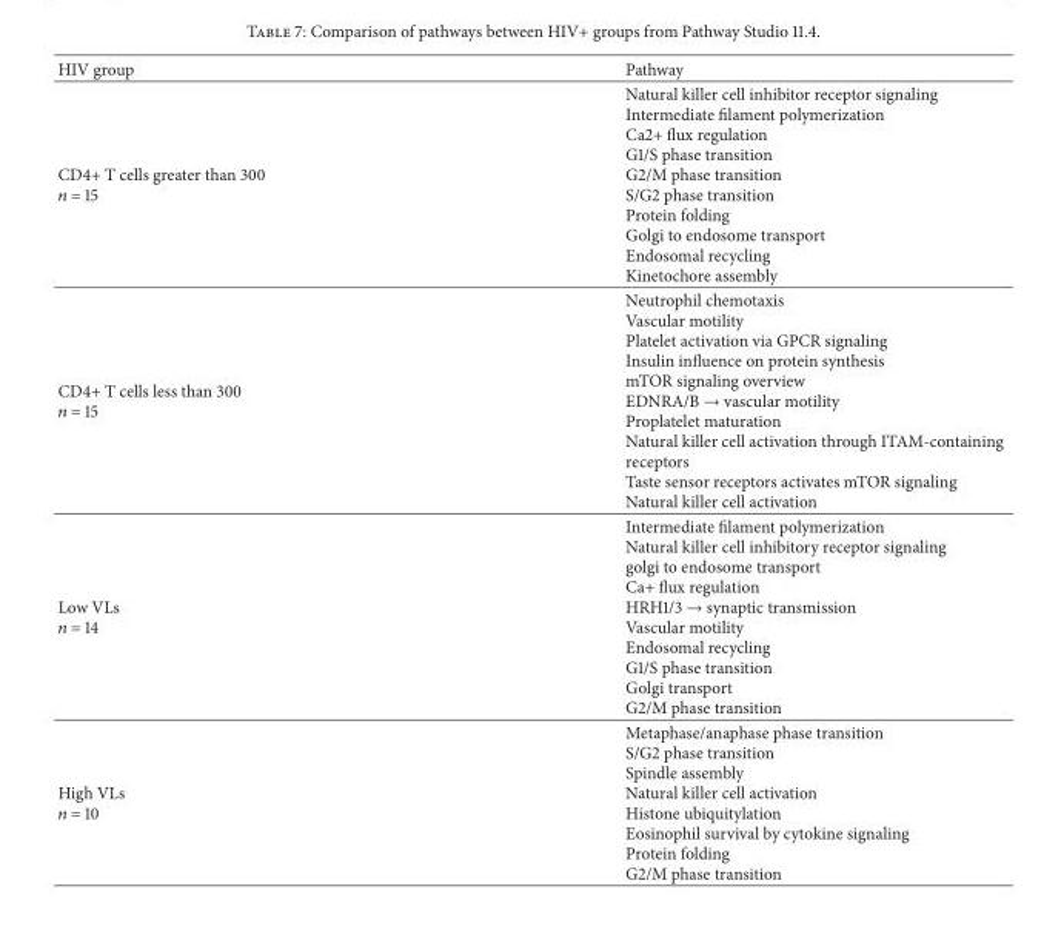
<table><thead><tr><td>HIV group</td><td>Pathway</td></tr></thead><tbody><tr><td>CD4+ T cells greater than 300 𝑛 = 15</td><td>Natural killer cell inhibitor receptor signaling Intermediate filament polymerization Ca2+ flux regulation G1/S phase transition G2/M phase transition S/G2 phase transition Protein folding Golgi to endosome transport Endosomal recycling Kinetochore assembly</td></tr><tr><td>CD4+ T cells less than 300 𝑛 = 15</td><td>Neutrophil chemotaxis Vascular motility Platelet activation via GPCR signaling Insulin influence on protein synthesis mTOR signaling overview EDNRA/B → vascular motility Proplatelet maturation Natural killer cell activation through ITAM-containing receptors Taste sensor receptors activates mTOR signaling Natural killer cell activation</td></tr><tr><td>Low VLs 𝑛 = 14</td><td>Intermediate filament polymerization Natural killer cell inhibitory receptor signaling golgi to endosome transport Ca+ flux regulation HRH1/3 → synaptic transmission Vascular motility Endosomal recycling G1/S phase transition Golgi transport G2/M phase transition</td></tr><tr><td>High VLs 𝑛 = 10</td><td>Metaphase/anaphase phase transition S/G2 phase transition Spindle assembly Natural killer cell activation Histone ubiquitylation Eosinophil survival by cytokine signaling Protein folding G2/M phase transition</td></tr></tbody></table>